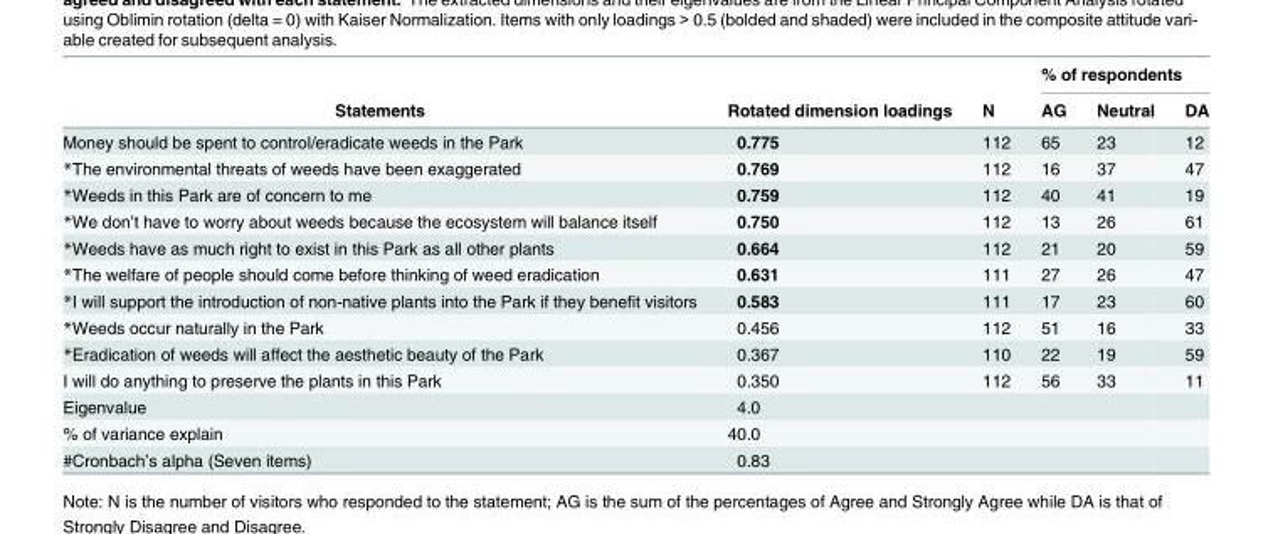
<table><thead><tr><td rowspan="2">Statements</td><td rowspan="2">Rotated dimension loadings</td><td rowspan="2">N</td><td colspan="3">% of respondents</td></tr><tr><td>AG</td><td>Neutral</td><td>DA</td></tr></thead><tbody><tr><td>Money should be spent to control/eradicate weeds in the Park</td><td>0.775</td><td>112</td><td>65</td><td>23</td><td>12</td></tr><tr><td>*The environmental threats of weeds have been exaggerated</td><td>0.769</td><td>112</td><td>16</td><td>37</td><td>47</td></tr><tr><td>*Weeds in this Park are of concern to me</td><td>0.759</td><td>112</td><td>40</td><td>41</td><td>19</td></tr><tr><td>*We don’t have to worry about weeds because the ecosystem will balance itself</td><td>0.750</td><td>112</td><td>13</td><td>26</td><td>61</td></tr><tr><td>*Weeds have as much right to exist in this Park as all other plants</td><td>0.664</td><td>112</td><td>21</td><td>20</td><td>59</td></tr><tr><td>*The welfare of people should come before thinking of weed eradication</td><td>0.631</td><td>111</td><td>27</td><td>26</td><td>47</td></tr><tr><td>*I will support the introduction of non-native plants into the Park if they benefit visitors</td><td>0.583</td><td>111</td><td>17</td><td>23</td><td>60</td></tr><tr><td>*Weeds occur naturally in the Park</td><td>0.456</td><td>112</td><td>51</td><td>16</td><td>33</td></tr><tr><td>*Eradication of weeds will affect the aesthetic beauty of the Park</td><td>0.367</td><td>110</td><td>22</td><td>19</td><td>59</td></tr><tr><td>I will do anything to preserve the plants in this Park</td><td>0.350</td><td>112</td><td>56</td><td>33</td><td>11</td></tr><tr><td>Eigenvalue</td><td>4.0</td><td></td><td></td><td></td><td></td></tr><tr><td>% of variance explain</td><td>40.0</td><td></td><td></td><td></td><td></td></tr><tr><td>#Cronbach’s alpha (Seven items)</td><td>0.83</td><td></td><td></td><td></td><td></td></tr></tbody></table>